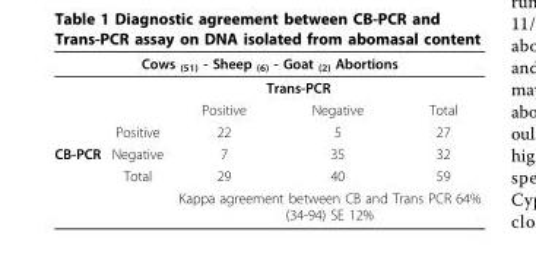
<table><thead><tr><td colspan="5">Cows <sub>(51)</sub> - Sheep <sub>(6)</sub> - Goat <sub>(2)</sub> Abortions</td></tr><tr><td rowspan="2"></td><td colspan="4">Trans-PCR</td></tr><tr><td></td><td>Positive</td><td>Negative</td><td>Total</td></tr></thead><tbody><tr><td></td><td>Positive</td><td>22</td><td>5</td><td>27</td></tr><tr><td rowspan="3">CB-PCR</td><td>Negative</td><td>7</td><td>35</td><td>32</td></tr><tr><td>Total</td><td>29</td><td>40</td><td>59</td></tr><tr><td></td><td colspan="3">Kappa agreement between CB and Trans PCR 64% (34-94) SE 12%</td></tr></tbody></table>